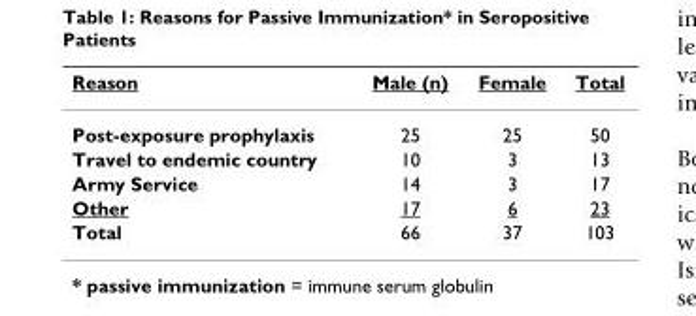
<table><thead><tr><td>Reason</td><td>Male (n)</td><td>Female</td><td>Total</td></tr></thead><tbody><tr><td>Post-exposure prophylaxis</td><td>25</td><td>25</td><td>50</td></tr><tr><td>Travel to endemic country</td><td>10</td><td>3</td><td>13</td></tr><tr><td>Army Service</td><td>14</td><td>3</td><td>17</td></tr><tr><td>Other</td><td>17</td><td>6</td><td>23</td></tr><tr><td>Total</td><td>66</td><td>37</td><td>103</td></tr></tbody></table>